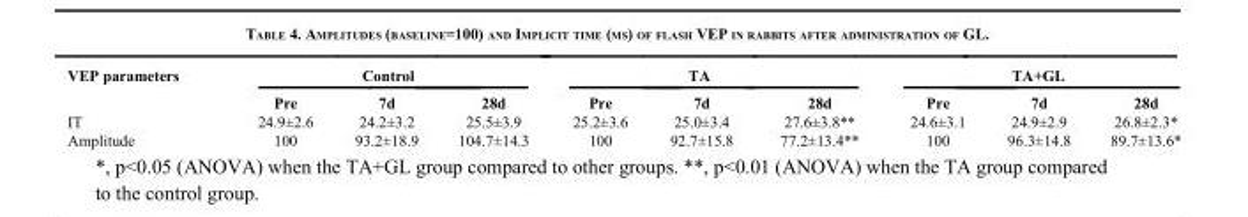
<table><thead><tr><td rowspan="2">VEP parameters</td><td colspan="3">Control</td><td colspan="3">TA</td><td colspan="3">TA+GL</td></tr><tr><td>Pre</td><td>7d</td><td>28d</td><td>Pre</td><td>7d</td><td>28d</td><td>Pre</td><td>7d</td><td>28d</td></tr></thead><tbody><tr><td>IT</td><td>24.9±2.6</td><td>24.2±3.2</td><td>25.5±3.9</td><td>25.2±3.6</td><td>25.0±3.4</td><td>27.6±3.8**</td><td>24.6±3.1</td><td>24.9±2.9</td><td>26.8±2.3*</td></tr><tr><td>Amplitude</td><td>100</td><td>93.2±18.9</td><td>104.7±14.3</td><td>100</td><td>92.7±15.8</td><td>77.2±13.4**</td><td>100</td><td>96.3±14.8</td><td>89.7±13.6*</td></tr></tbody></table>